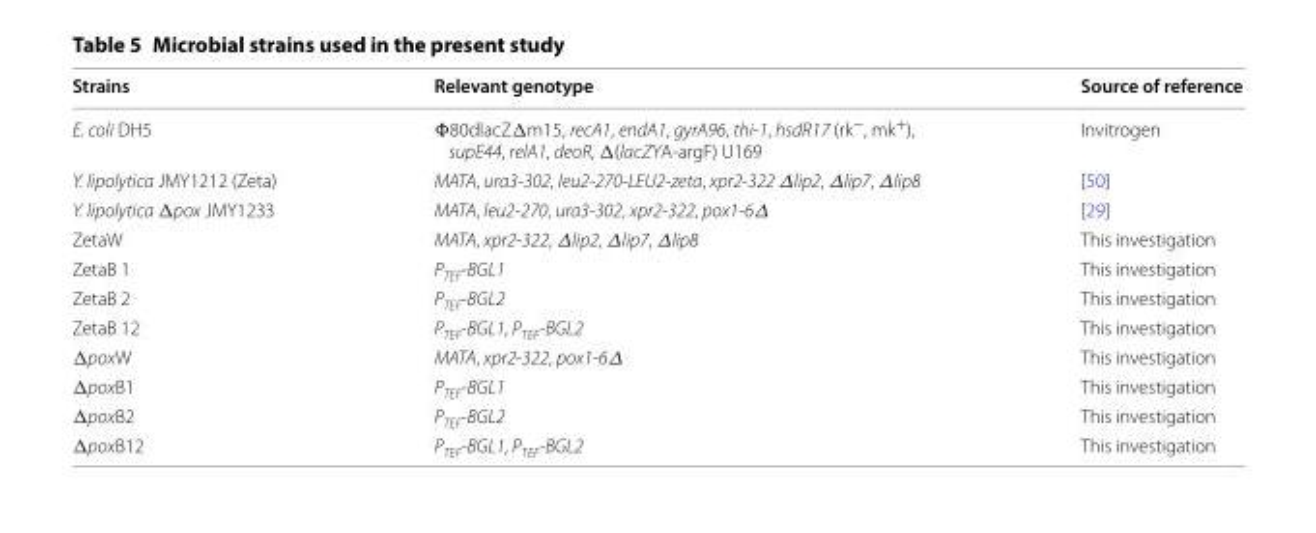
<table><thead><tr><td>Strains</td><td>Relevant genotype</td><td>Source of reference</td></tr></thead><tbody><tr><td>E. coli DH5</td><td>Φ80dlacZ∆m15, recA1, endA1, gyrA96, thi‑1, hsdR17 (rk−, mk+), supE44, relA1, deoR, ∆(lacZYA‑argF) U169</td><td>Invitrogen</td></tr><tr><td>Y. lipolytica JMY1212 (Zeta)</td><td>MATA, ura3‑302, leu2‑270‑LEU2‑zeta, xpr2‑322 ∆lip2, ∆lip7, ∆lip8</td><td>[50]</td></tr><tr><td>Y. lipolytica ∆pox JMY1233</td><td>MATA, leu2‑270, ura3‑302, xpr2‑322, pox1‑6∆</td><td>[29]</td></tr><tr><td>ZetaW</td><td>MATA, xpr2‑322, ∆lip2, ∆lip7, ∆lip8</td><td>This investigation</td></tr><tr><td>ZetaB 1</td><td>P<sub>TEF</sub>‑BGL1</td><td>This investigation</td></tr><tr><td>ZetaB 2</td><td>P<sub>TEF</sub>‑BGL2</td><td>This investigation</td></tr><tr><td>ZetaB 12</td><td>P<sub>TEF</sub>‑BGL1, P<sub>TEF</sub>‑BGL2</td><td>This investigation</td></tr><tr><td>∆poxW</td><td>MATA, xpr2‑322, pox1‑6∆</td><td>This investigation</td></tr><tr><td>∆poxB1</td><td>P<sub>TEF</sub>‑BGL1</td><td>This investigation</td></tr><tr><td>∆poxB2</td><td>P<sub>TEF</sub>‑BGL2</td><td>This investigation</td></tr><tr><td>∆poxB12</td><td>P<sub>TEF</sub>‑BGL1, P<sub>TEF</sub>‑BGL2</td><td>This investigation</td></tr></tbody></table>